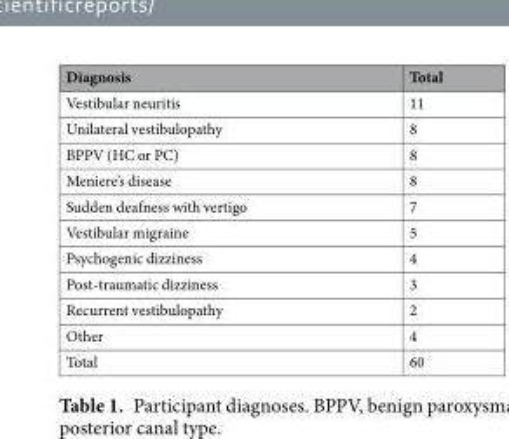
<table><thead><tr><td>Diagnosis</td><td>Total</td></tr></thead><tbody><tr><td>Vestibular neuritis</td><td>11</td></tr><tr><td>Unilateral vestibulopathy</td><td>8</td></tr><tr><td>BPPV (HC or PC)</td><td>8</td></tr><tr><td>Meniere’s disease</td><td>8</td></tr><tr><td>Sudden deafness with vertigo</td><td>7</td></tr><tr><td>Vestibular migraine</td><td>5</td></tr><tr><td>Psychogenic dizziness</td><td>4</td></tr><tr><td>Post-traumatic dizziness</td><td>3</td></tr><tr><td>Recurrent vestibulopathy</td><td>2</td></tr><tr><td>Other</td><td>4</td></tr><tr><td>Total</td><td>60</td></tr></tbody></table>